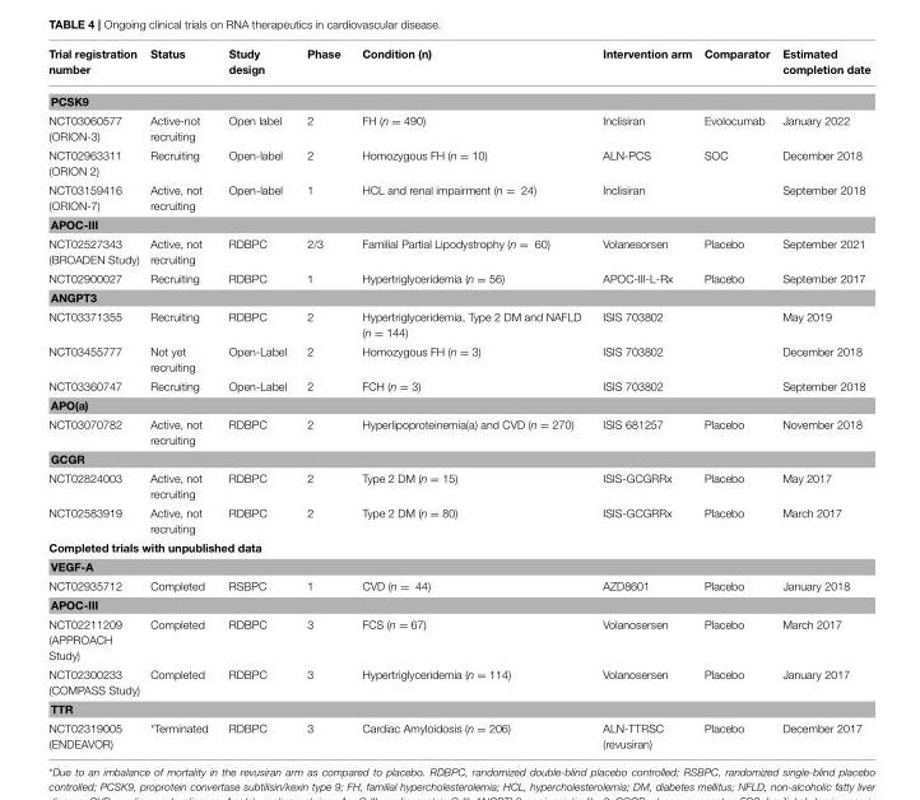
<table><thead><tr><td>Trial registration number</td><td>Status</td><td>Study design</td><td>Phase</td><td>Condition (n)</td><td>Intervention arm</td><td>Comparator</td><td>Estimated completion date</td></tr></thead><tbody><tr><td colspan="8">PCSK9</td></tr><tr><td>NCT03060577 (ORION-3)</td><td>Active-not recruiting</td><td>Open label</td><td>2</td><td>FH (n = 490)</td><td>Inclisiran</td><td>Evolocumab</td><td>January 2022</td></tr><tr><td>NCT02963311 (ORION 2)</td><td>Recruiting</td><td>Open-label</td><td>2</td><td>Homozygous FH (n = 10)</td><td>ALN-PCS</td><td>SOC</td><td>December 2018</td></tr><tr><td>NCT03159416 (ORION-7)</td><td>Active, not recruiting</td><td>Open-label</td><td>1</td><td>HCL and renal impairment (n = 24)</td><td>Inclisiran</td><td></td><td>September 2018</td></tr><tr><td colspan="8">APOC-III</td></tr><tr><td>NCT02527343 (BROADEN Study)</td><td>Active, not recruiting</td><td>RDBPC</td><td>2/3</td><td>Familial Partial Lipodystrophy (n = 60)</td><td>Volanesorsen</td><td>Placebo</td><td>September 2021</td></tr><tr><td>NCT02900027</td><td>Recruiting</td><td>RDBPC</td><td>1</td><td>Hypertriglyceridemia (n = 56)</td><td>APOC-III-L-Rx</td><td>Placebo</td><td>September 2017</td></tr><tr><td colspan="8">ANGPT3</td></tr><tr><td>NCT03371355</td><td>Recruiting</td><td>RDBPC</td><td>2</td><td>Hypertriglyceridemia, Type 2 DM and NAFLD (n = 144)</td><td>ISIS 703802</td><td></td><td>May 2019</td></tr><tr><td>NCT03455777</td><td>Not yet recruiting</td><td>Open-Label</td><td>2</td><td>Homozygous FH (n = 3)</td><td>ISIS 703802</td><td></td><td>December 2018</td></tr><tr><td>NCT03360747</td><td>Recruiting</td><td>Open-Label</td><td>2</td><td>FCH (n = 3)</td><td>ISIS 703802</td><td></td><td>September 2018</td></tr><tr><td colspan="8">APO(a)</td></tr><tr><td>NCT03070782</td><td>Active, not recruiting</td><td>RDBPC</td><td>2</td><td>Hyperlipoproteinemia(a) and CVD (n = 270)</td><td>ISIS 681257</td><td>Placebo</td><td>November 2018</td></tr><tr><td colspan="8">GCGR</td></tr><tr><td>NCT02824003</td><td>Active, not recruiting</td><td>RDBPC</td><td>2</td><td>Type 2 DM (n = 15)</td><td>ISIS-GCGRRx</td><td>Placebo</td><td>May 2017</td></tr><tr><td>NCT02583919</td><td>Active, not recruiting</td><td>RDBPC</td><td>2</td><td>Type 2 DM (n = 80)</td><td>ISIS-GCGRRx</td><td>Placebo</td><td>March 2017</td></tr><tr><td colspan="8">Completed trials with unpublished data</td></tr><tr><td colspan="8">VEGF-A</td></tr><tr><td>NCT02935712</td><td>Completed</td><td>RSBPC</td><td>1</td><td>CVD (n = 44)</td><td>AZD8601</td><td>Placebo</td><td>January 2018</td></tr><tr><td colspan="8">APOC-III</td></tr><tr><td>NCT02211209 (APPROACH Study)</td><td>Completed</td><td>RDBPC</td><td>3</td><td>FCS (n = 67)</td><td>Volanosersen</td><td>Placebo</td><td>March 2017</td></tr><tr><td>NCT02300233 (COMPASS Study)</td><td>Completed</td><td>RDBPC</td><td>3</td><td>Hypertriglyceridemia (n = 114)</td><td>Volanosersen</td><td>Placebo</td><td>January 2017</td></tr><tr><td colspan="8">TTR</td></tr><tr><td>NCT02319005 (ENDEAVOR)</td><td>*Terminated</td><td>RDBPC</td><td>3</td><td>Cardiac Amyloidosis (n = 206)</td><td>ALN-TTRSC (revusiran)</td><td>Placebo</td><td>December 2017</td></tr></tbody></table>